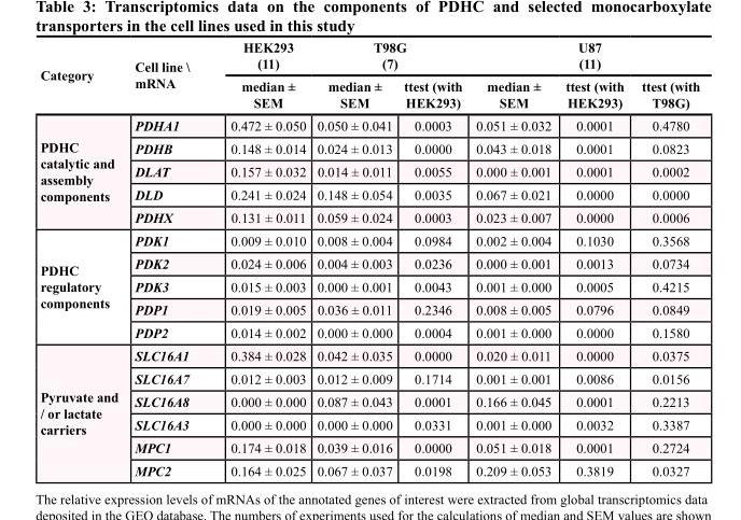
<table><thead><tr><td rowspan="2">Category</td><td rowspan="2">Cell line \ mRNA</td><td rowspan="2">HEK293 (11) median ± SEM</td><td colspan="2">T98G (7)</td><td colspan="3">U87 (11)</td></tr><tr><td>median ± SEM</td><td>ttest (with HEK293)</td><td>median ± SEM</td><td>ttest (with HEK293)</td><td>ttest (with T98G)</td></tr></thead><tbody><tr><td rowspan="5">PDHC catalytic and assembly components</td><td>PDHA1</td><td>0.472 ± 0.050</td><td>0.050 ± 0.041</td><td>0.0003</td><td>0.051 ± 0.032</td><td>0.0001</td><td>0.4780</td></tr><tr><td>PDHB</td><td>0.148 ± 0.014</td><td>0.024 ± 0.013</td><td>0.0000</td><td>0.043 ± 0.018</td><td>0.0001</td><td>0.0823</td></tr><tr><td>DLAT</td><td>0.157 ± 0.032</td><td>0.014 ± 0.011</td><td>0.0055</td><td>0.000 ± 0.001</td><td>0.0001</td><td>0.0002</td></tr><tr><td>DLD</td><td>0.241 ± 0.024</td><td>0.148 ± 0.054</td><td>0.0035</td><td>0.067 ± 0.021</td><td>0.0000</td><td>0.0000</td></tr><tr><td>PDHX</td><td>0.131 ± 0.011</td><td>0.059 ± 0.024</td><td>0.0003</td><td>0.023 ± 0.007</td><td>0.0000</td><td>0.0006</td></tr><tr><td rowspan="5">PDHC regulatory components</td><td>PDK1</td><td>0.009 ± 0.010</td><td>0.008 ± 0.004</td><td>0.0984</td><td>0.002 ± 0.004</td><td>0.1030</td><td>0.3568</td></tr><tr><td>PDK2</td><td>0.024 ± 0.006</td><td>0.004 ± 0.003</td><td>0.0236</td><td>0.000 ± 0.001</td><td>0.0013</td><td>0.0734</td></tr><tr><td>PDK3</td><td>0.015 ± 0.003</td><td>0.000 ± 0.001</td><td>0.0043</td><td>0.001 ± 0.000</td><td>0.0005</td><td>0.4215</td></tr><tr><td>PDP1</td><td>0.019 ± 0.005</td><td>0.036 ± 0.011</td><td>0.2346</td><td>0.008 ± 0.005</td><td>0.0796</td><td>0.0849</td></tr><tr><td>PDP2</td><td>0.014 ± 0.002</td><td>0.000 ± 0.000</td><td>0.0004</td><td>0.001 ± 0.000</td><td>0.0000</td><td>0.1580</td></tr><tr><td rowspan="6">Pyruvate and / or lactate carriers</td><td>SLC16A1</td><td>0.384 ± 0.028</td><td>0.042 ± 0.035</td><td>0.0000</td><td>0.020 ± 0.011</td><td>0.0000</td><td>0.0375</td></tr><tr><td>SLC16A7</td><td>0.012 ± 0.003</td><td>0.012 ± 0.009</td><td>0.1714</td><td>0.001 ± 0.001</td><td>0.0086</td><td>0.0156</td></tr><tr><td>SLC16A8</td><td>0.000 ± 0.000</td><td>0.087 ± 0.043</td><td>0.0001</td><td>0.166 ± 0.045</td><td>0.0001</td><td>0.2213</td></tr><tr><td>SLC16A3</td><td>0.000 ± 0.000</td><td>0.000 ± 0.000</td><td>0.0331</td><td>0.001 ± 0.000</td><td>0.0032</td><td>0.3387</td></tr><tr><td>MPC1</td><td>0.174 ± 0.018</td><td>0.039 ± 0.016</td><td>0.0000</td><td>0.051 ± 0.018</td><td>0.0001</td><td>0.2724</td></tr><tr><td>MPC2</td><td>0.164 ± 0.025</td><td>0.067 ± 0.037</td><td>0.0198</td><td>0.209 ± 0.053</td><td>0.3819</td><td>0.0327</td></tr></tbody></table>